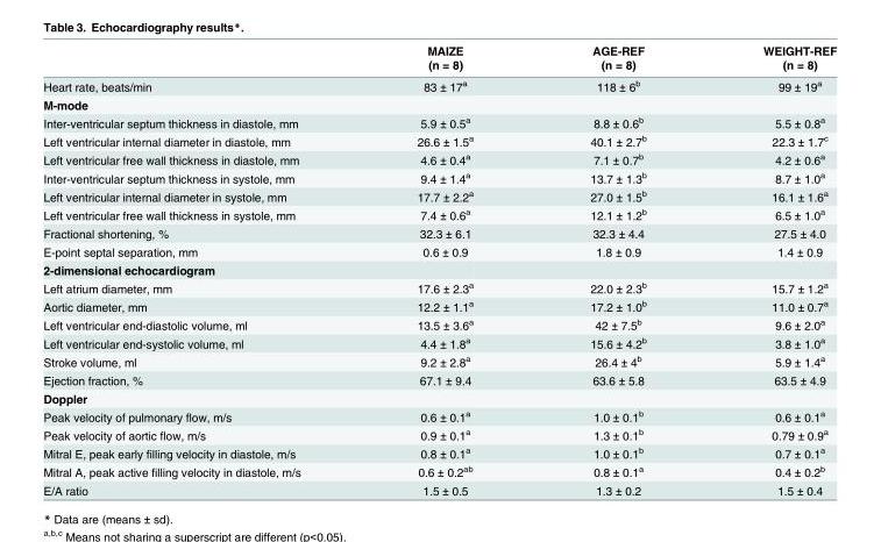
<table><thead><tr><td rowspan="2"></td><td rowspan="2">MAIZE (n = 8)</td><td rowspan="2">AGE-REF (n = 8)</td><td rowspan="2">WEIGHT-REF (n = 8)</td></tr><tr></tr></thead><tbody><tr><td>Heart rate, beats/min</td><td>83 ± 17<sup>a</sup></td><td>118 ± 6<sup>b</sup></td><td>99 ± 19<sup>a</sup></td></tr><tr><td colspan="4">M-mode</td></tr><tr><td>Inter-ventricular septum thickness in diastole, mm</td><td>5.9 ± 0.5<sup>a</sup></td><td>8.8 ± 0.6<sup>b</sup></td><td>5.5 ± 0.8<sup>a</sup></td></tr><tr><td>Left ventricular internal diameter in diastole, mm</td><td>26.6 ± 1.5<sup>a</sup></td><td>40.1 ± 2.7<sup>b</sup></td><td>22.3 ± 1.7<sup>c</sup></td></tr><tr><td>Left ventricular free wall thickness in diastole, mm</td><td>4.6 ± 0.4<sup>a</sup></td><td>7.1 ± 0.7<sup>b</sup></td><td>4.2 ± 0.6<sup>a</sup></td></tr><tr><td>Inter-ventricular septum thickness in systole, mm</td><td>9.4 ± 1.4<sup>a</sup></td><td>13.7 ± 1.3<sup>b</sup></td><td>8.7 ± 1.0<sup>a</sup></td></tr><tr><td>Left ventricular internal diameter in systole, mm</td><td>17.7 ± 2.2<sup>a</sup></td><td>27.0 ± 1.5<sup>b</sup></td><td>16.1 ± 1.6<sup>a</sup></td></tr><tr><td>Left ventricular free wall thickness in systole, mm</td><td>7.4 ± 0.6<sup>a</sup></td><td>12.1 ± 1.2<sup>b</sup></td><td>6.5 ± 1.0<sup>a</sup></td></tr><tr><td>Fractional shortening, %</td><td>32.3 ± 6.1</td><td>32.3 ± 4.4</td><td>27.5 ± 4.0</td></tr><tr><td>E-point septal separation, mm</td><td>0.6 ± 0.9</td><td>1.8 ± 0.9</td><td>1.4 ± 0.9</td></tr><tr><td colspan="4">2-dimensional echocardiogram</td></tr><tr><td>Left atrium diameter, mm</td><td>17.6 ± 2.3<sup>a</sup></td><td>22.0 ± 2.3<sup>b</sup></td><td>15.7 ± 1.2<sup>a</sup></td></tr><tr><td>Aortic diameter, mm</td><td>12.2 ± 1.1<sup>a</sup></td><td>17.2 ± 1.0<sup>b</sup></td><td>11.0 ± 0.7<sup>a</sup></td></tr><tr><td>Left ventricular end-diastolic volume, ml</td><td>13.5 ± 3.6<sup>a</sup></td><td>42 ± 7.5<sup>b</sup></td><td>9.6 ± 2.0<sup>a</sup></td></tr><tr><td>Left ventricular end-systolic volume, ml</td><td>4.4 ± 1.8<sup>a</sup></td><td>15.6 ± 4.2<sup>b</sup></td><td>3.8 ± 1.0<sup>a</sup></td></tr><tr><td>Stroke volume, ml</td><td>9.2 ± 2.8<sup>a</sup></td><td>26.4 ± 4<sup>b</sup></td><td>5.9 ± 1.4<sup>a</sup></td></tr><tr><td>Ejection fraction, %</td><td>67.1 ± 9.4</td><td>63.6 ± 5.8</td><td>63.5 ± 4.9</td></tr><tr><td colspan="4">Doppler</td></tr><tr><td>Peak velocity of pulmonary flow, m/s</td><td>0.6 ± 0.1<sup>a</sup></td><td>1.0 ± 0.1<sup>b</sup></td><td>0.6 ± 0.1<sup>a</sup></td></tr><tr><td>Peak velocity of aortic flow, m/s</td><td>0.9 ± 0.1<sup>a</sup></td><td>1.3 ± 0.1<sup>b</sup></td><td>0.79 ± 0.9<sup>a</sup></td></tr><tr><td>Mitral E, peak early filling velocity in diastole, m/s</td><td>0.8 ± 0.1<sup>a</sup></td><td>1.0 ± 0.1<sup>b</sup></td><td>0.7 ± 0.1<sup>a</sup></td></tr><tr><td>Mitral A, peak active filling velocity in diastole, m/s</td><td>0.6 ± 0.2<sup>ab</sup></td><td>0.8 ± 0.1<sup>a</sup></td><td>0.4 ± 0.2<sup>b</sup></td></tr><tr><td>E/A ratio</td><td>1.5 ± 0.5</td><td>1.3 ± 0.2</td><td>1.5 ± 0.4</td></tr></tbody></table>